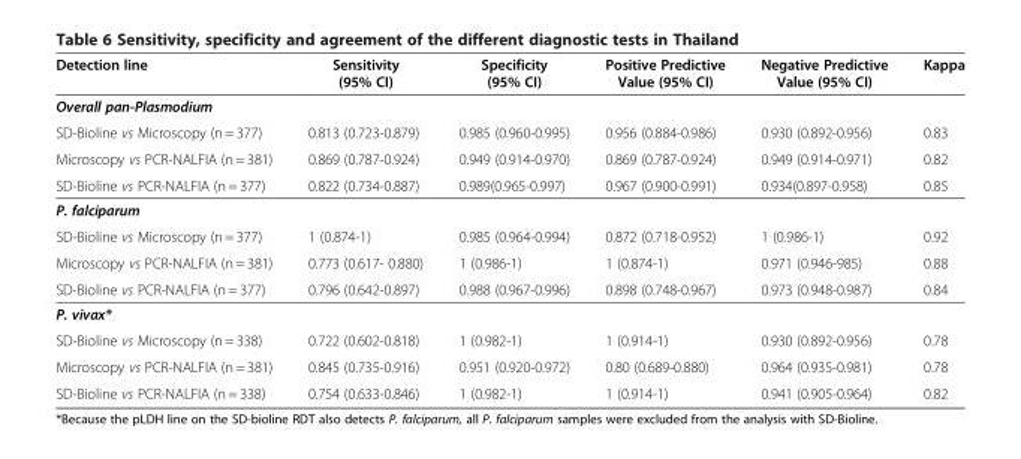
<table><thead><tr><td>Detection line</td><td>Sensitivity (95% CI)</td><td>Specificity (95% CI)</td><td>Positive Predictive Value (95% CI)</td><td>Negative Predictive Value (95% CI)</td><td>Kappa</td></tr></thead><tbody><tr><td colspan="6">Overall pan-Plasmodium</td></tr><tr><td>SD-Bioline vs Microscopy (n = 377)</td><td>0.813 (0.723-0.879)</td><td>0.985 (0.960-0.995)</td><td>0.956 (0.884-0.986)</td><td>0.930 (0.892-0.956)</td><td>0.83</td></tr><tr><td>Microscopy vs PCR-NALFIA (n = 381)</td><td>0.869 (0.787-0.924)</td><td>0.949 (0.914-0.970)</td><td>0.869 (0.787-0.924)</td><td>0.949 (0.914-0.971)</td><td>0.82</td></tr><tr><td>SD-Bioline vs PCR-NALFIA (n = 377)</td><td>0.822 (0.734-0.887)</td><td>0.989(0.965-0.997)</td><td>0.967 (0.900-0.991)</td><td>0.934(0.897-0.958)</td><td>0.85</td></tr><tr><td colspan="6">P. falciparum</td></tr><tr><td>SD-Bioline vs Microscopy (n = 377)</td><td>1 (0.874-1)</td><td>0.985 (0.964-0.994)</td><td>0.872 (0.718-0.952)</td><td>1 (0.986-1)</td><td>0.92</td></tr><tr><td>Microscopy vs PCR-NALFIA (n = 381)</td><td>0.773 (0.617- 0.880)</td><td>1 (0.986-1)</td><td>1 (0.874-1)</td><td>0.971 (0.946-985)</td><td>0.88</td></tr><tr><td>SD-Bioline vs PCR-NALFIA (n = 377)</td><td>0.796 (0.642-0.897)</td><td>0.988 (0.967-0.996)</td><td>0.898 (0.748-0.967)</td><td>0.973 (0.948-0.987)</td><td>0.84</td></tr><tr><td colspan="6">P. vivax*</td></tr><tr><td>SD-Bioline vs Microscopy (n = 338)</td><td>0.722 (0.602-0.818)</td><td>1 (0.982-1)</td><td>1 (0.914-1)</td><td>0.930 (0.892-0.956)</td><td>0.78</td></tr><tr><td>Microscopy vs PCR-NALFIA (n = 381)</td><td>0.845 (0.735-0.916)</td><td>0.951 (0.920-0.972)</td><td>0.80 (0.689-0.880)</td><td>0.964 (0.935-0.981)</td><td>0.78</td></tr><tr><td>SD-Bioline vs PCR-NALFIA (n = 338)</td><td>0.754 (0.633-0.846)</td><td>1 (0.982-1)</td><td>1 (0.914-1)</td><td>0.941 (0.905-0.964)</td><td>0.82</td></tr></tbody></table>